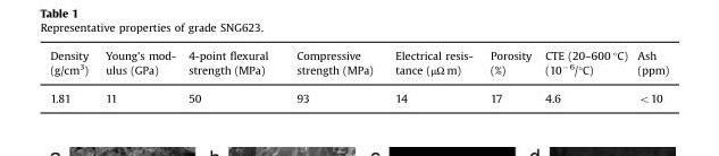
<table><thead><tr><td>Density (g/cm<sup>3</sup>)</td><td>Young&#x27;s mod- ulus (GPa)</td><td>4-point flexural strength (MPa)</td><td>Compressive strength (MPa)</td><td>Electrical resis- tance (μΩ m)</td><td>Porosity (%)</td><td>CTE (20–600 °C) (10<sup>−6</sup>/°C)</td><td>Ash (ppm)</td></tr></thead><tbody><tr><td>1.81</td><td>11</td><td>50</td><td>93</td><td>14</td><td>17</td><td>4.6</td><td>&lt;10</td></tr></tbody></table>